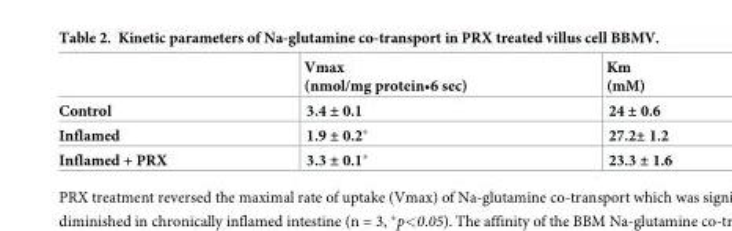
<table><thead><tr><td></td><td>Vmax (nmol/mg protein•6 sec)</td><td>Km (mM)</td></tr></thead><tbody><tr><td>Control</td><td>3.4 ± 0.1</td><td>24 ± 0.6</td></tr><tr><td>Inflamed</td><td>1.9 ± 0.2*</td><td>27.2± 1.2</td></tr><tr><td>Inflamed + PRX</td><td>3.3 ± 0.1*</td><td>23.3 ± 1.6</td></tr></tbody></table>